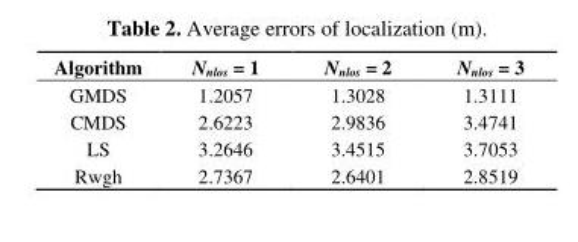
<table><thead><tr><td>Algorithm</td><td>N<sub>nlos</sub> = 1</td><td>N<sub>nlos</sub> = 2</td><td>N<sub>nlos</sub> = 3</td></tr></thead><tbody><tr><td>GMDS</td><td>1.2057</td><td>1.3028</td><td>1.3111</td></tr><tr><td>CMDS</td><td>2.6223</td><td>2.9836</td><td>3.4741</td></tr><tr><td>LS</td><td>3.2646</td><td>3.4515</td><td>3.7053</td></tr><tr><td>Rwgh</td><td>2.7367</td><td>2.6401</td><td>2.8519</td></tr></tbody></table>